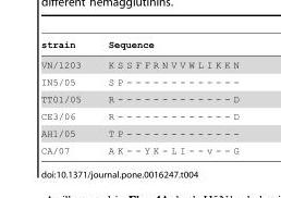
<table><thead><tr><td>strain</td><td>Sequence</td></tr></thead><tbody><tr><td>VN/1203</td><td>K S S F F R N V V W L I K K N</td></tr><tr><td>IN5/05</td><td>S P - - - - - - - - - - - - -</td></tr><tr><td>TT01/05</td><td>R - - - - - - - - - - - - - D</td></tr><tr><td>CE3/06</td><td>R - - - - - - - - - - - - - D</td></tr><tr><td>AH1/05</td><td>T P - - - - - - - - - - - - -</td></tr><tr><td>CA/07</td><td>A K - - Y K - L I - - v - - G</td></tr></tbody></table>